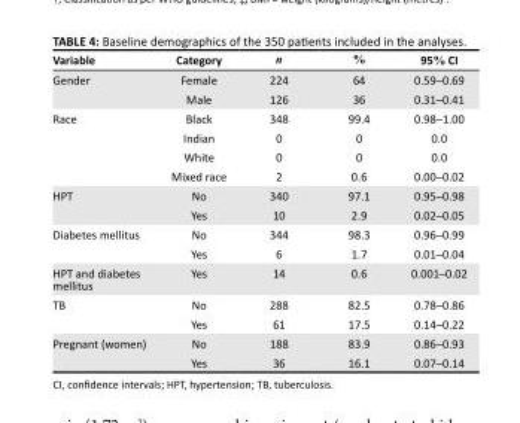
<table><thead><tr><td>Variable</td><td>Category</td><td>n</td><td>%</td><td>95% CI</td></tr></thead><tbody><tr><td rowspan="2">Gender</td><td>Female</td><td>224</td><td>64</td><td>0.59─0.69</td></tr><tr><td>Male</td><td>126</td><td>36</td><td>0.31─0.41</td></tr><tr><td rowspan="4">Race</td><td>Black</td><td>348</td><td>99.4</td><td>0.98─1.00</td></tr><tr><td>Indian</td><td>0</td><td>0</td><td>0.0</td></tr><tr><td>White</td><td>0</td><td>0</td><td>0.0</td></tr><tr><td>Mixed race</td><td>2</td><td>0.6</td><td>0.00─0.02</td></tr><tr><td rowspan="2">HPT</td><td>No</td><td>340</td><td>97.1</td><td>0.95─0.98</td></tr><tr><td>Yes</td><td>10</td><td>2.9</td><td>0.02─0.05</td></tr><tr><td rowspan="2">Diabetes mellitus</td><td>No</td><td>344</td><td>98.3</td><td>0.96─0.99</td></tr><tr><td>Yes</td><td>6</td><td>1.7</td><td>0.01─0.04</td></tr><tr><td>HPT and diabetes mellitus</td><td>Yes</td><td>14</td><td>0.6</td><td>0.001─0.02</td></tr><tr><td rowspan="2">TB</td><td>No</td><td>288</td><td>82.5</td><td>0.78─0.86</td></tr><tr><td>Yes</td><td>61</td><td>17.5</td><td>0.14─0.22</td></tr><tr><td rowspan="2">Pregnant (women)</td><td>No</td><td>188</td><td>83.9</td><td>0.86─0.93</td></tr><tr><td>Yes</td><td>36</td><td>16.1</td><td>0.07─0.14</td></tr></tbody></table>